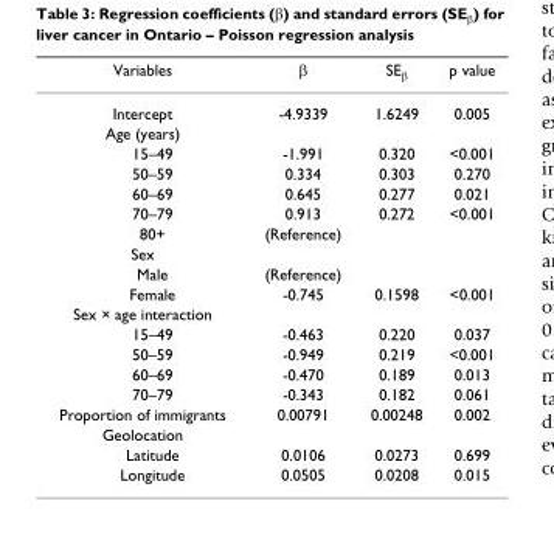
<table><thead><tr><td>Variables</td><td>β</td><td>SE<sub>β</sub></td><td>p value</td></tr></thead><tbody><tr><td>Intercept</td><td>-4.9339</td><td>1.6249</td><td>0.005</td></tr><tr><td colspan="4">Age (years)</td></tr><tr><td>15–49</td><td>-1.991</td><td>0.320</td><td>&lt;0.001</td></tr><tr><td>50–59</td><td>0.334</td><td>0.303</td><td>0.270</td></tr><tr><td>60–69</td><td>0.645</td><td>0.277</td><td>0.021</td></tr><tr><td>70–79</td><td>0.913</td><td>0.272</td><td>&lt;0.001</td></tr><tr><td>80+</td><td>(Reference)</td><td></td><td></td></tr><tr><td colspan="4">Sex</td></tr><tr><td>Male</td><td>(Reference)</td><td></td><td></td></tr><tr><td>Female</td><td>-0.745</td><td>0.1598</td><td>&lt;0.001</td></tr><tr><td colspan="4">Sex × age interaction</td></tr><tr><td>15–49</td><td>-0.463</td><td>0.220</td><td>0.037</td></tr><tr><td>50–59</td><td>-0.949</td><td>0.219</td><td>&lt;0.001</td></tr><tr><td>60–69</td><td>-0.470</td><td>0.189</td><td>0.013</td></tr><tr><td>70–79</td><td>-0.343</td><td>0.182</td><td>0.061</td></tr><tr><td>Proportion of immigrants</td><td>0.00791</td><td>0.00248</td><td>0.002</td></tr><tr><td colspan="4">Geolocation</td></tr><tr><td>Latitude</td><td>0.0106</td><td>0.0273</td><td>0.699</td></tr><tr><td>Longitude</td><td>0.0505</td><td>0.0208</td><td>0.015</td></tr></tbody></table>